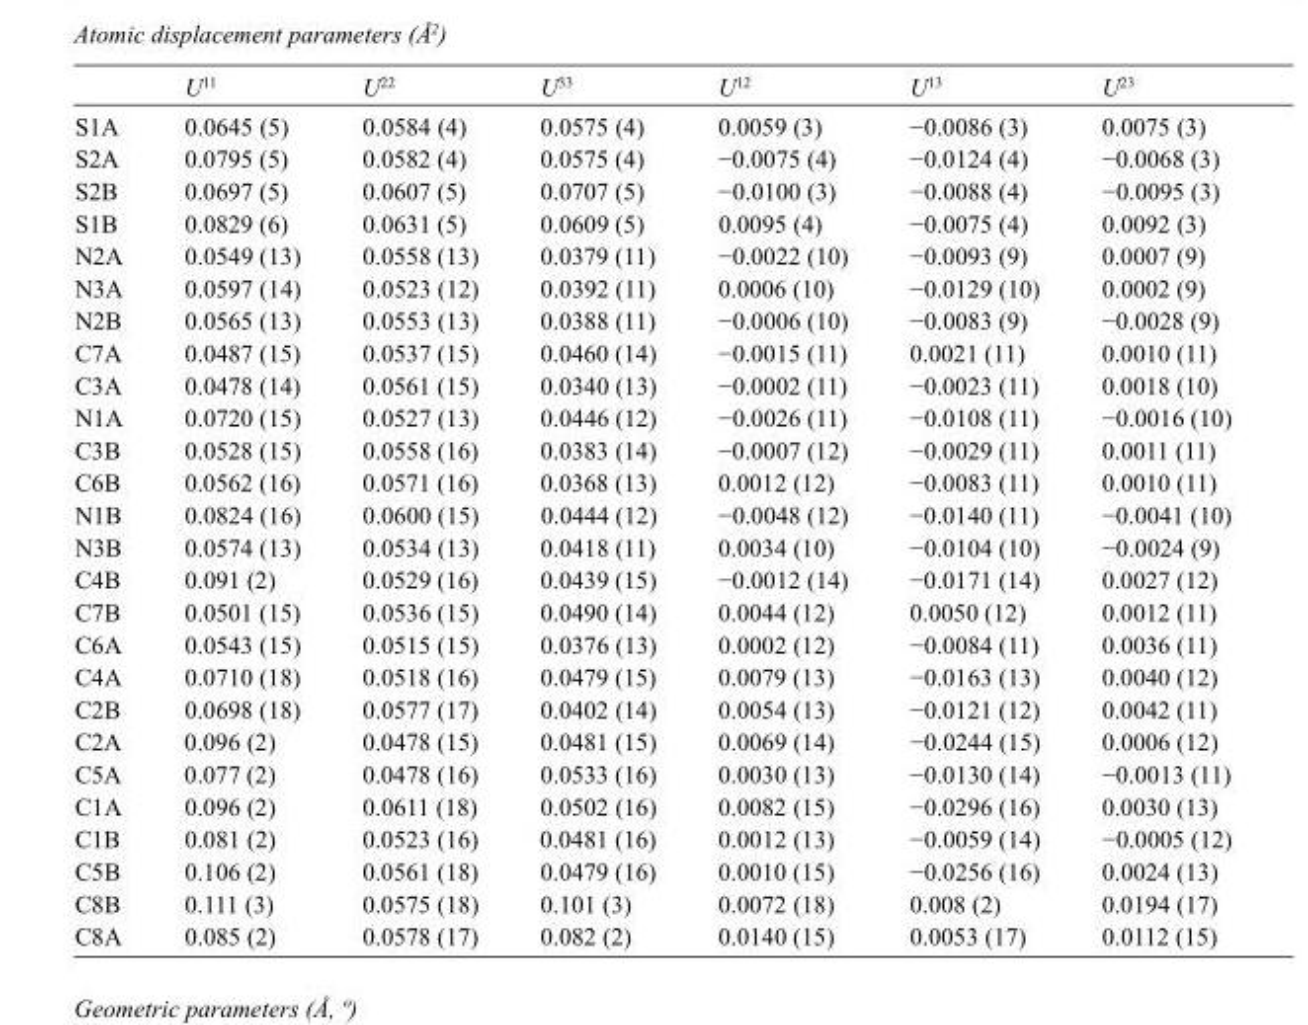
<table><thead><tr><td></td><td>U<sup>11</sup></td><td>U<sup>22</sup></td><td>U<sup>33</sup></td><td>U<sup>12</sup></td><td>U<sup>13</sup></td><td>U<sup>23</sup></td></tr></thead><tbody><tr><td>S1A</td><td>0.0645 (5)</td><td>0.0584 (4)</td><td>0.0575 (4)</td><td>0.0059 (3)</td><td>−0.0086 (3)</td><td>0.0075 (3)</td></tr><tr><td>S2A</td><td>0.0795 (5)</td><td>0.0582 (4)</td><td>0.0575 (4)</td><td>−0.0075 (4)</td><td>−0.0124 (4)</td><td>−0.0068 (3)</td></tr><tr><td>S2B</td><td>0.0697 (5)</td><td>0.0607 (5)</td><td>0.0707 (5)</td><td>−0.0100 (3)</td><td>−0.0088 (4)</td><td>−0.0095 (3)</td></tr><tr><td>S1B</td><td>0.0829 (6)</td><td>0.0631 (5)</td><td>0.0609 (5)</td><td>0.0095 (4)</td><td>−0.0075 (4)</td><td>0.0092 (3)</td></tr><tr><td>N2A</td><td>0.0549 (13)</td><td>0.0558 (13)</td><td>0.0379 (11)</td><td>−0.0022 (10)</td><td>−0.0093 (9)</td><td>0.0007 (9)</td></tr><tr><td>N3A</td><td>0.0597 (14)</td><td>0.0523 (12)</td><td>0.0392 (11)</td><td>0.0006 (10)</td><td>−0.0129 (10)</td><td>0.0002 (9)</td></tr><tr><td>N2B</td><td>0.0565 (13)</td><td>0.0553 (13)</td><td>0.0388 (11)</td><td>−0.0006 (10)</td><td>−0.0083 (9)</td><td>−0.0028 (9)</td></tr><tr><td>C7A</td><td>0.0487 (15)</td><td>0.0537 (15)</td><td>0.0460 (14)</td><td>−0.0015 (11)</td><td>0.0021 (11)</td><td>0.0010 (11)</td></tr><tr><td>C3A</td><td>0.0478 (14)</td><td>0.0561 (15)</td><td>0.0340 (13)</td><td>−0.0002 (11)</td><td>−0.0023 (11)</td><td>0.0018 (10)</td></tr><tr><td>N1A</td><td>0.0720 (15)</td><td>0.0527 (13)</td><td>0.0446 (12)</td><td>−0.0026 (11)</td><td>−0.0108 (11)</td><td>−0.0016 (10)</td></tr><tr><td>C3B</td><td>0.0528 (15)</td><td>0.0558 (16)</td><td>0.0383 (14)</td><td>−0.0007 (12)</td><td>−0.0029 (11)</td><td>0.0011 (11)</td></tr><tr><td>C6B</td><td>0.0562 (16)</td><td>0.0571 (16)</td><td>0.0368 (13)</td><td>0.0012 (12)</td><td>−0.0083 (11)</td><td>0.0010 (11)</td></tr><tr><td>N1B</td><td>0.0824 (16)</td><td>0.0600 (15)</td><td>0.0444 (12)</td><td>−0.0048 (12)</td><td>−0.0140 (11)</td><td>−0.0041 (10)</td></tr><tr><td>N3B</td><td>0.0574 (13)</td><td>0.0534 (13)</td><td>0.0418 (11)</td><td>0.0034 (10)</td><td>−0.0104 (10)</td><td>−0.0024 (9)</td></tr><tr><td>C4B</td><td>0.091 (2)</td><td>0.0529 (16)</td><td>0.0439 (15)</td><td>−0.0012 (14)</td><td>−0.0171 (14)</td><td>0.0027 (12)</td></tr><tr><td>C7B</td><td>0.0501 (15)</td><td>0.0536 (15)</td><td>0.0490 (14)</td><td>0.0044 (12)</td><td>0.0050 (12)</td><td>0.0012 (11)</td></tr><tr><td>C6A</td><td>0.0543 (15)</td><td>0.0515 (15)</td><td>0.0376 (13)</td><td>0.0002 (12)</td><td>−0.0084 (11)</td><td>0.0036 (11)</td></tr><tr><td>C4A</td><td>0.0710 (18)</td><td>0.0518 (16)</td><td>0.0479 (15)</td><td>0.0079 (13)</td><td>−0.0163 (13)</td><td>0.0040 (12)</td></tr><tr><td>C2B</td><td>0.0698 (18)</td><td>0.0577 (17)</td><td>0.0402 (14)</td><td>0.0054 (13)</td><td>−0.0121 (12)</td><td>0.0042 (11)</td></tr><tr><td>C2A</td><td>0.096 (2)</td><td>0.0478 (15)</td><td>0.0481 (15)</td><td>0.0069 (14)</td><td>−0.0244 (15)</td><td>0.0006 (12)</td></tr><tr><td>C5A</td><td>0.077 (2)</td><td>0.0478 (16)</td><td>0.0533 (16)</td><td>0.0030 (13)</td><td>−0.0130 (14)</td><td>−0.0013 (11)</td></tr><tr><td>C1A</td><td>0.096 (2)</td><td>0.0611 (18)</td><td>0.0502 (16)</td><td>0.0082 (15)</td><td>−0.0296 (16)</td><td>0.0030 (13)</td></tr><tr><td>C1B</td><td>0.081 (2)</td><td>0.0523 (16)</td><td>0.0481 (16)</td><td>0.0012 (13)</td><td>−0.0059 (14)</td><td>−0.0005 (12)</td></tr><tr><td>C5B</td><td>0.106 (2)</td><td>0.0561 (18)</td><td>0.0479 (16)</td><td>0.0010 (15)</td><td>−0.0256 (16)</td><td>0.0024 (13)</td></tr><tr><td>C8B</td><td>0.111 (3)</td><td>0.0575 (18)</td><td>0.101 (3)</td><td>0.0072 (18)</td><td>0.008 (2)</td><td>0.0194 (17)</td></tr><tr><td>C8A</td><td>0.085 (2)</td><td>0.0578 (17)</td><td>0.082 (2)</td><td>0.0140 (15)</td><td>0.0053 (17)</td><td>0.0112 (15)</td></tr></tbody></table>